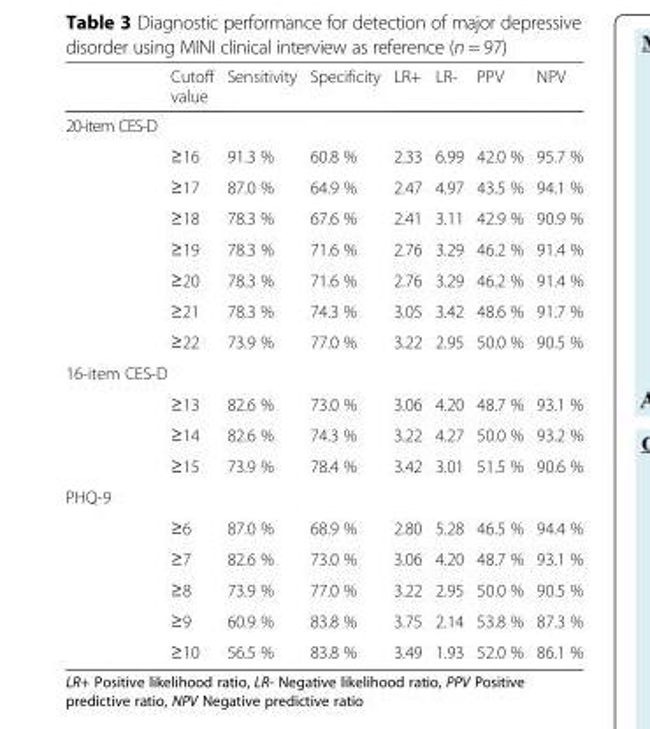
<table><thead><tr><td></td><td>Cutoff value</td><td>Sensitivity</td><td>Specificity</td><td>LR+</td><td>LR-</td><td>PPV</td><td>NPV</td></tr></thead><tbody><tr><td colspan="8">20-item CES-D</td></tr><tr><td></td><td>≥16</td><td>91.3 %</td><td>60.8 %</td><td>2.33</td><td>6.99</td><td>42.0 %</td><td>95.7 %</td></tr><tr><td></td><td>≥17</td><td>87.0 %</td><td>64.9 %</td><td>2.47</td><td>4.97</td><td>43.5 %</td><td>94.1 %</td></tr><tr><td></td><td>≥18</td><td>78.3 %</td><td>67.6 %</td><td>2.41</td><td>3.11</td><td>42.9 %</td><td>90.9 %</td></tr><tr><td></td><td>≥19</td><td>78.3 %</td><td>71.6 %</td><td>2.76</td><td>3.29</td><td>46.2 %</td><td>91.4 %</td></tr><tr><td></td><td>≥20</td><td>78.3 %</td><td>71.6 %</td><td>2.76</td><td>3.29</td><td>46.2 %</td><td>91.4 %</td></tr><tr><td></td><td>≥21</td><td>78.3 %</td><td>74.3 %</td><td>3.05</td><td>3.42</td><td>48.6 %</td><td>91.7 %</td></tr><tr><td></td><td>≥22</td><td>73.9 %</td><td>77.0 %</td><td>3.22</td><td>2.95</td><td>50.0 %</td><td>90.5 %</td></tr><tr><td colspan="8">16-item CES-D</td></tr><tr><td></td><td>≥13</td><td>82.6 %</td><td>73.0 %</td><td>3.06</td><td>4.20</td><td>48.7 %</td><td>93.1 %</td></tr><tr><td></td><td>≥14</td><td>82.6 %</td><td>74.3 %</td><td>3.22</td><td>4.27</td><td>50.0 %</td><td>93.2 %</td></tr><tr><td></td><td>≥15</td><td>73.9 %</td><td>78.4 %</td><td>3.42</td><td>3.01</td><td>51.5 %</td><td>90.6 %</td></tr><tr><td colspan="8">PHQ-9</td></tr><tr><td></td><td>≥6</td><td>87.0 %</td><td>68.9 %</td><td>2.80</td><td>5.28</td><td>46.5 %</td><td>94.4 %</td></tr><tr><td></td><td>≥7</td><td>82.6 %</td><td>73.0 %</td><td>3.06</td><td>4.20</td><td>48.7 %</td><td>93.1 %</td></tr><tr><td></td><td>≥8</td><td>73.9 %</td><td>77.0 %</td><td>3.22</td><td>2.95</td><td>50.0 %</td><td>90.5 %</td></tr><tr><td></td><td>≥9</td><td>60.9 %</td><td>83.8 %</td><td>3.75</td><td>2.14</td><td>53.8 %</td><td>87.3 %</td></tr><tr><td></td><td>≥10</td><td>56.5 %</td><td>83.8 %</td><td>3.49</td><td>1.93</td><td>52.0 %</td><td>86.1 %</td></tr></tbody></table>